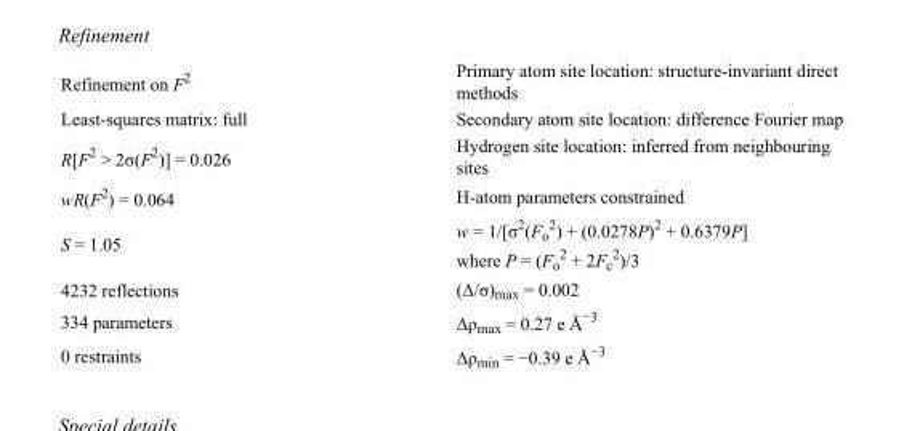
<table><tbody><tr><td>Refinement on F<sup>2</sup></td><td>Primary atom site location: structure-invariant direct methods</td></tr><tr><td>Least-squares matrix: full</td><td>Secondary atom site location: difference Fourier map</td></tr><tr><td>R[F<sup>2</sup> &gt; 2σ(F<sup>2</sup>)] = 0.026</td><td>Hydrogen site location: inferred from neighbouring sites</td></tr><tr><td>wR(F<sup>2</sup>) = 0.064</td><td>H-atom parameters constrained</td></tr><tr><td>S = 1.05</td><td>w = 1/[σ<sup>2</sup>(F<sub>o</sub> <sup>2</sup>) + (0.0278P)<sup>2</sup> + 0.6379P] where P = (F<sub>o</sub> <sup>2</sup> + 2F<sub>c</sub> <sup>2</sup>)/3</td></tr><tr><td>4232 reflections</td><td>(Δ/σ)<sub>max</sub> = 0.002</td></tr><tr><td>334 parameters</td><td>Δρ<sub>max</sub> = 0.27 e Å<sup>−3</sup></td></tr><tr><td>0 restraints</td><td>Δρ<sub>min</sub> = −0.39 e Å<sup>−3</sup></td></tr></tbody></table>